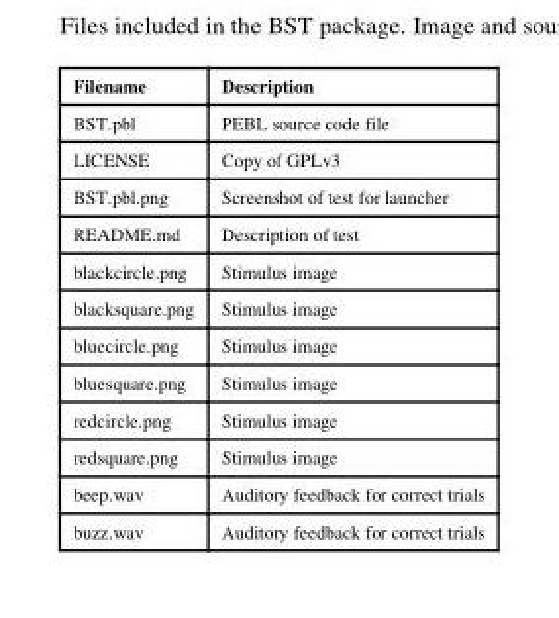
<table><thead><tr><td>Filename</td><td>Description</td></tr></thead><tbody><tr><td>BST.pbl</td><td>PEBL source code file</td></tr><tr><td>LICENSE</td><td>Copy of GPLv3</td></tr><tr><td>BST.pbl.png</td><td>Screenshot of test for launcher</td></tr><tr><td>README.md</td><td>Description of test</td></tr><tr><td>blackcircle.png</td><td>Stimulus image</td></tr><tr><td>blacksquare.png</td><td>Stimulus image</td></tr><tr><td>bluecircle.png</td><td>Stimulus image</td></tr><tr><td>bluesquare.png</td><td>Stimulus image</td></tr><tr><td>redcircle.png</td><td>Stimulus image</td></tr><tr><td>redsquare.png</td><td>Stimulus image</td></tr><tr><td>beep.wav</td><td>Auditory feedback for correct trials</td></tr><tr><td>buzz.wav</td><td>Auditory feedback for correct trials</td></tr></tbody></table>